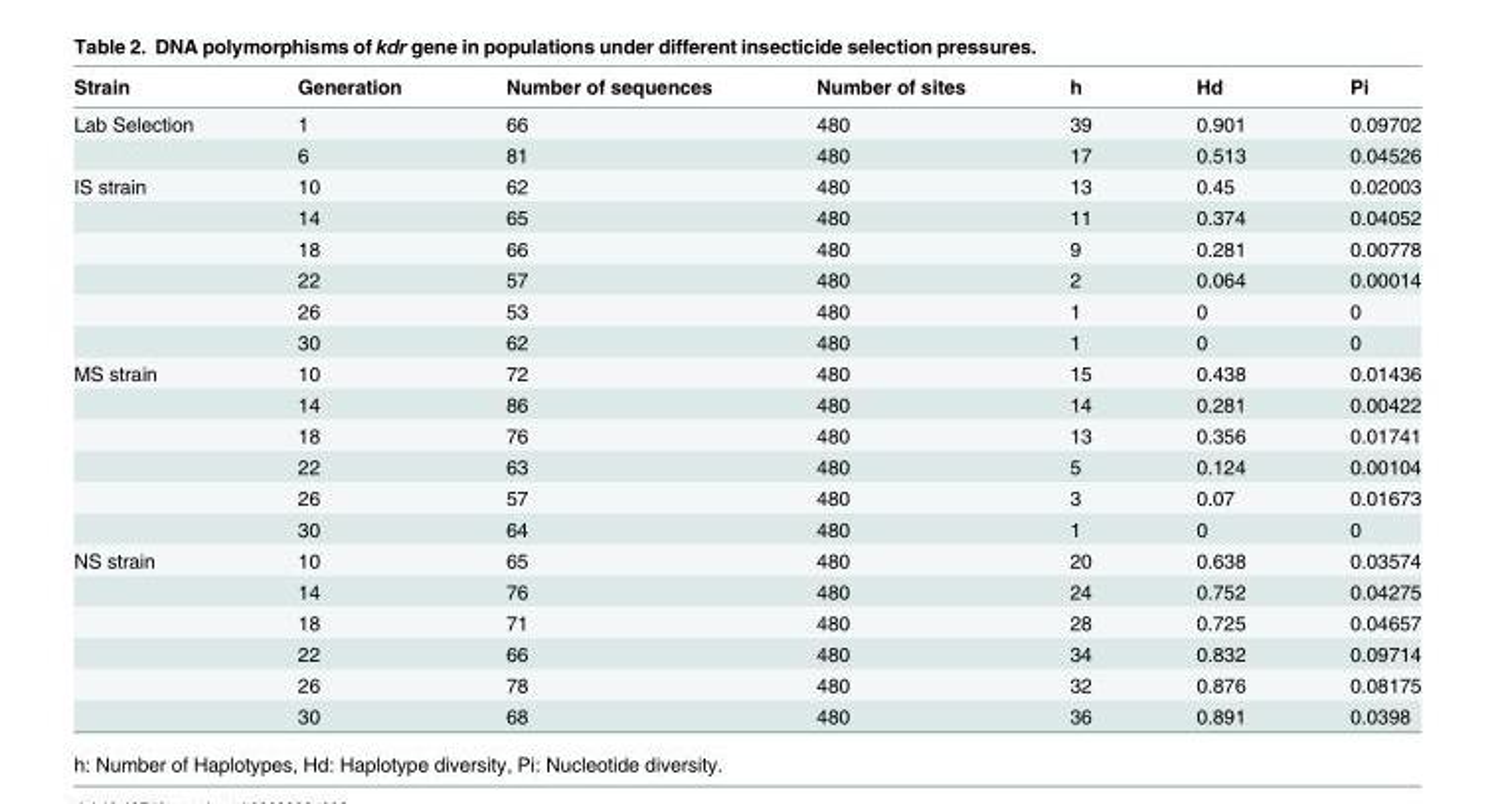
<table><thead><tr><td>Strain</td><td>Generation</td><td>Number of sequences</td><td>Number of sites</td><td>h</td><td>Hd</td><td>Pi</td></tr></thead><tbody><tr><td rowspan="2">Lab Selection</td><td>1</td><td>66</td><td>480</td><td>39</td><td>0.901</td><td>0.09702</td></tr><tr><td>6</td><td>81</td><td>480</td><td>17</td><td>0.513</td><td>0.04526</td></tr><tr><td rowspan="6">IS strain</td><td>10</td><td>62</td><td>480</td><td>13</td><td>0.45</td><td>0.02003</td></tr><tr><td>14</td><td>65</td><td>480</td><td>11</td><td>0.374</td><td>0.04052</td></tr><tr><td>18</td><td>66</td><td>480</td><td>9</td><td>0.281</td><td>0.00778</td></tr><tr><td>22</td><td>57</td><td>480</td><td>2</td><td>0.064</td><td>0.00014</td></tr><tr><td>26</td><td>53</td><td>480</td><td>1</td><td>0</td><td>0</td></tr><tr><td>30</td><td>62</td><td>480</td><td>1</td><td>0</td><td>0</td></tr><tr><td rowspan="6">MS strain</td><td>10</td><td>72</td><td>480</td><td>15</td><td>0.438</td><td>0.01436</td></tr><tr><td>14</td><td>86</td><td>480</td><td>14</td><td>0.281</td><td>0.00422</td></tr><tr><td>18</td><td>76</td><td>480</td><td>13</td><td>0.356</td><td>0.01741</td></tr><tr><td>22</td><td>63</td><td>480</td><td>5</td><td>0.124</td><td>0.00104</td></tr><tr><td>26</td><td>57</td><td>480</td><td>3</td><td>0.07</td><td>0.01673</td></tr><tr><td>30</td><td>64</td><td>480</td><td>1</td><td>0</td><td>0</td></tr><tr><td rowspan="6">NS strain</td><td>10</td><td>65</td><td>480</td><td>20</td><td>0.638</td><td>0.03574</td></tr><tr><td>14</td><td>76</td><td>480</td><td>24</td><td>0.752</td><td>0.04275</td></tr><tr><td>18</td><td>71</td><td>480</td><td>28</td><td>0.725</td><td>0.04657</td></tr><tr><td>22</td><td>66</td><td>480</td><td>34</td><td>0.832</td><td>0.09714</td></tr><tr><td>26</td><td>78</td><td>480</td><td>32</td><td>0.876</td><td>0.08175</td></tr><tr><td>30</td><td>68</td><td>480</td><td>36</td><td>0.891</td><td>0.0398</td></tr></tbody></table>